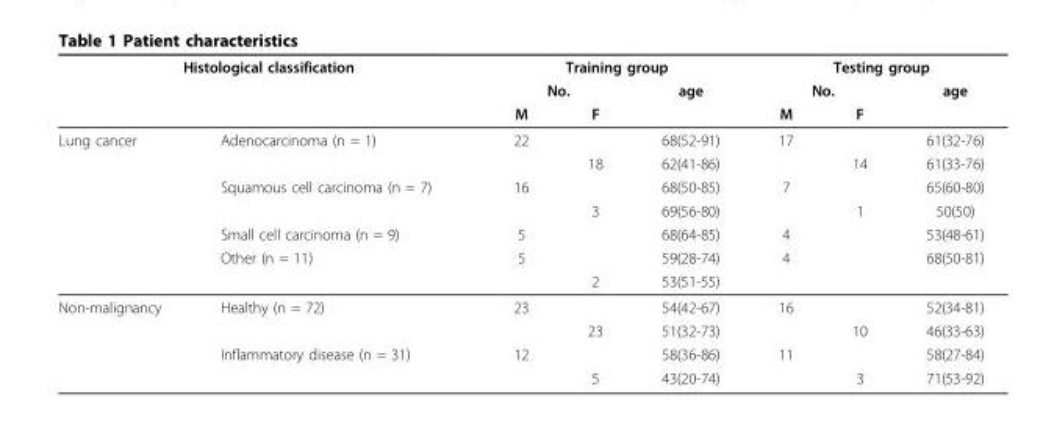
<table><thead><tr><td colspan="2">Histological classification</td><td colspan="3">Training group</td><td colspan="3">Testing group</td></tr><tr><td rowspan="2"></td><td rowspan="2"></td><td colspan="2">No.</td><td rowspan="2">age</td><td colspan="2">No.</td><td rowspan="2">age</td></tr><tr><td>M</td><td>F</td><td>M</td><td>F</td></tr></thead><tbody><tr><td rowspan="7">Lung cancer</td><td>Adenocarcinoma (n = 1)</td><td>22</td><td></td><td>68(52-91)</td><td>17</td><td></td><td>61(32-76)</td></tr><tr><td></td><td></td><td>18</td><td>62(41-86)</td><td></td><td>14</td><td>61(33-76)</td></tr><tr><td>Squamous cell carcinoma (n = 7)</td><td>16</td><td></td><td>68(50-85)</td><td>7</td><td></td><td>65(60-80)</td></tr><tr><td></td><td></td><td>3</td><td>69(56-80)</td><td></td><td>1</td><td>50(50)</td></tr><tr><td>Small cell carcinoma (n = 9)</td><td>5</td><td></td><td>68(64-85)</td><td>4</td><td></td><td>53(48-61)</td></tr><tr><td>Other (n = 11)</td><td>5</td><td></td><td>59(28-74)</td><td>4</td><td></td><td>68(50-81)</td></tr><tr><td></td><td></td><td>2</td><td>53(51-55)</td><td></td><td></td><td></td></tr><tr><td rowspan="4">Non-malignancy</td><td>Healthy (n = 72)</td><td>23</td><td></td><td>54(42-67)</td><td>16</td><td></td><td>52(34-81)</td></tr><tr><td></td><td></td><td>23</td><td>51(32-73)</td><td></td><td>10</td><td>46(33-63)</td></tr><tr><td>Inflammatory disease (n = 31)</td><td>12</td><td></td><td>58(36-86)</td><td>11</td><td></td><td>58(27-84)</td></tr><tr><td></td><td></td><td>5</td><td>43(20-74)</td><td></td><td>3</td><td>71(53-92)</td></tr></tbody></table>